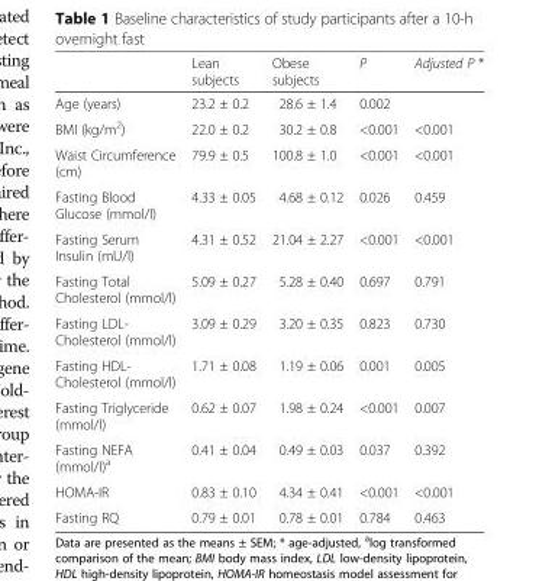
<table><thead><tr><td></td><td>Lean subjects</td><td>Obese subjects</td><td>P</td><td>Adjusted P *</td></tr></thead><tbody><tr><td>Age (years)</td><td>23.2 ± 0.2</td><td>28.6 ± 1.4</td><td>0.002</td><td></td></tr><tr><td>BMI (kg/m<sup>2</sup>)</td><td>22.0 ± 0.2</td><td>30.2 ± 0.8</td><td>&lt;0.001</td><td>&lt;0.001</td></tr><tr><td>Waist Circumference (cm)</td><td>79.9 ± 0.5</td><td>100.8 ± 1.0</td><td>&lt;0.001</td><td>&lt;0.001</td></tr><tr><td>Fasting Blood Glucose (mmol/l)</td><td>4.33 ± 0.05</td><td>4.68 ± 0.12</td><td>0.026</td><td>0.459</td></tr><tr><td>Fasting Serum Insulin (mU/l)</td><td>4.31 ± 0.52</td><td>21.04 ± 2.27</td><td>&lt;0.001</td><td>&lt;0.001</td></tr><tr><td>Fasting Total Cholesterol (mmol/l)</td><td>5.09 ± 0.27</td><td>5.28 ± 0.40</td><td>0.697</td><td>0.791</td></tr><tr><td>Fasting LDL- Cholesterol (mmol/l)</td><td>3.09 ± 0.29</td><td>3.20 ± 0.35</td><td>0.823</td><td>0.730</td></tr><tr><td>Fasting HDL- Cholesterol (mmol/l)</td><td>1.71 ± 0.08</td><td>1.19 ± 0.06</td><td>0.001</td><td>0.005</td></tr><tr><td>Fasting Triglyceride (mmol/l)</td><td>0.62 ± 0.07</td><td>1.98 ± 0.24</td><td>&lt;0.001</td><td>0.007</td></tr><tr><td>Fasting NEFA (mmol/l)<sup>a</sup></td><td>0.41 ± 0.04</td><td>0.49 ± 0.03</td><td>0.037</td><td>0.392</td></tr><tr><td>HOMA-IR</td><td>0.83 ± 0.10</td><td>4.34 ± 0.41</td><td>&lt;0.001</td><td>&lt;0.001</td></tr><tr><td>Fasting RQ</td><td>0.79 ± 0.01</td><td>0.78 ± 0.01</td><td>0.784</td><td>0.463</td></tr></tbody></table>